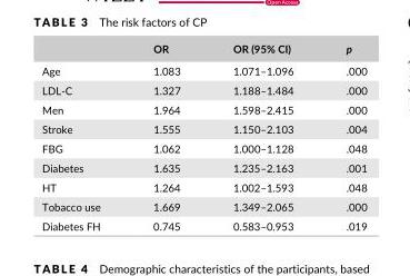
<table><thead><tr><td></td><td>OR</td><td>OR (95% CI)</td><td>p</td></tr></thead><tbody><tr><td>Age</td><td>1.083</td><td>1.071–1.096</td><td>.000</td></tr><tr><td>LDL- C</td><td>1.327</td><td>1.188–1.484</td><td>.000</td></tr><tr><td>Men</td><td>1.964</td><td>1.598–2.415</td><td>.000</td></tr><tr><td>Stroke</td><td>1.555</td><td>1.150–2.103</td><td>.004</td></tr><tr><td>FBG</td><td>1.062</td><td>1.000–1.128</td><td>.048</td></tr><tr><td>Diabetes</td><td>1.635</td><td>1.235–2.163</td><td>.001</td></tr><tr><td>HT</td><td>1.264</td><td>1.002–1.593</td><td>.048</td></tr><tr><td>Tobacco use</td><td>1.669</td><td>1.349–2.065</td><td>.000</td></tr><tr><td>Diabetes FH</td><td>0.745</td><td>0.583–0.953</td><td>.019</td></tr></tbody></table>